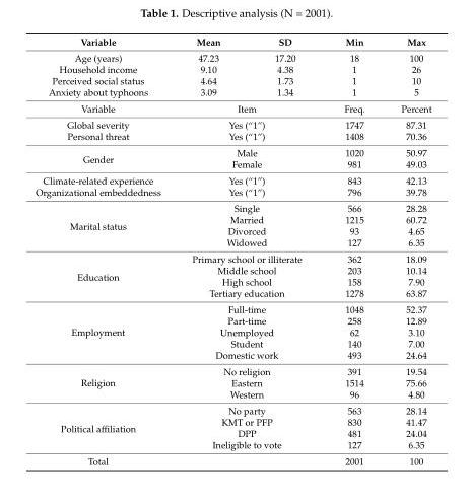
<table><thead><tr><td>Variable</td><td>Mean</td><td>SD</td><td>Min</td><td>Max</td></tr></thead><tbody><tr><td>Age (years)</td><td>47.23</td><td>17.20</td><td>18</td><td>100</td></tr><tr><td>Household income</td><td>9.10</td><td>4.38</td><td>1</td><td>26</td></tr><tr><td>Perceived social status</td><td>4.64</td><td>1.73</td><td>1</td><td>10</td></tr><tr><td>Anxiety about typhoons</td><td>3.09</td><td>1.34</td><td>1</td><td>5</td></tr><tr><td>Variable</td><td colspan="2">Item</td><td>Freq.</td><td>Percent</td></tr><tr><td>Global severity</td><td colspan="2">Yes (“1”)</td><td>1747</td><td>87.31</td></tr><tr><td>Personal threat</td><td colspan="2">Yes (“1”)</td><td>1408</td><td>70.36</td></tr><tr><td rowspan="2">Gender</td><td colspan="2">Male</td><td>1020</td><td>50.97</td></tr><tr><td colspan="2">Female</td><td>981</td><td>49.03</td></tr><tr><td>Climate-related experience</td><td colspan="2">Yes (“1”)</td><td>843</td><td>42.13</td></tr><tr><td>Organizational embeddedness</td><td colspan="2">Yes (“1”)</td><td>796</td><td>39.78</td></tr><tr><td rowspan="4">Marital status</td><td colspan="2">Single</td><td>566</td><td>28.28</td></tr><tr><td colspan="2">Married</td><td>1215</td><td>60.72</td></tr><tr><td colspan="2">Divorced</td><td>93</td><td>4.65</td></tr><tr><td colspan="2">Widowed</td><td>127</td><td>6.35</td></tr><tr><td rowspan="4">Education</td><td colspan="2">Primary school or illiterate</td><td>362</td><td>18.09</td></tr><tr><td colspan="2">Middle school</td><td>203</td><td>10.14</td></tr><tr><td colspan="2">High school</td><td>158</td><td>7.90</td></tr><tr><td colspan="2">Tertiary education</td><td>1278</td><td>63.87</td></tr><tr><td rowspan="5">Employment</td><td colspan="2">Full-time</td><td>1048</td><td>52.37</td></tr><tr><td colspan="2">Part-time</td><td>258</td><td>12.89</td></tr><tr><td colspan="2">Unemployed</td><td>62</td><td>3.10</td></tr><tr><td colspan="2">Student</td><td>140</td><td>7.00</td></tr><tr><td colspan="2">Domestic work</td><td>493</td><td>24.64</td></tr><tr><td rowspan="3">Religion</td><td colspan="2">No religion</td><td>391</td><td>19.54</td></tr><tr><td colspan="2">Eastern</td><td>1514</td><td>75.66</td></tr><tr><td colspan="2">Western</td><td>96</td><td>4.80</td></tr><tr><td rowspan="4">Political affiliation</td><td colspan="2">No party</td><td>563</td><td>28.14</td></tr><tr><td colspan="2">KMT or PFP</td><td>830</td><td>41.47</td></tr><tr><td colspan="2">DPP</td><td>481</td><td>24.04</td></tr><tr><td colspan="2">Ineligible to vote</td><td>127</td><td>6.35</td></tr><tr><td>Total</td><td colspan="2"></td><td>2001</td><td>100</td></tr></tbody></table>